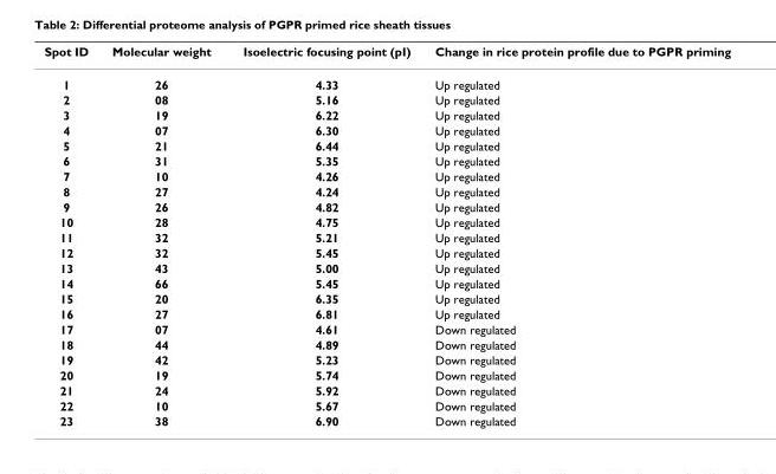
<table><thead><tr><td>Spot ID</td><td>Molecular weight</td><td>Isoelectric focusing point (pI)</td><td>Change in rice protein profile due to PGPR priming</td></tr></thead><tbody><tr><td>1</td><td>26</td><td>4.33</td><td>Up regulated</td></tr><tr><td>2</td><td>08</td><td>5.16</td><td>Up regulated</td></tr><tr><td>3</td><td>19</td><td>6.22</td><td>Up regulated</td></tr><tr><td>4</td><td>07</td><td>6.30</td><td>Up regulated</td></tr><tr><td>5</td><td>21</td><td>6.44</td><td>Up regulated</td></tr><tr><td>6</td><td>31</td><td>5.35</td><td>Up regulated</td></tr><tr><td>7</td><td>10</td><td>4.26</td><td>Up regulated</td></tr><tr><td>8</td><td>27</td><td>4.24</td><td>Up regulated</td></tr><tr><td>9</td><td>26</td><td>4.82</td><td>Up regulated</td></tr><tr><td>10</td><td>28</td><td>4.75</td><td>Up regulated</td></tr><tr><td>11</td><td>32</td><td>5.21</td><td>Up regulated</td></tr><tr><td>12</td><td>32</td><td>5.45</td><td>Up regulated</td></tr><tr><td>13</td><td>43</td><td>5.00</td><td>Up regulated</td></tr><tr><td>14</td><td>66</td><td>5.45</td><td>Up regulated</td></tr><tr><td>15</td><td>20</td><td>6.35</td><td>Up regulated</td></tr><tr><td>16</td><td>27</td><td>6.81</td><td>Up regulated</td></tr><tr><td>17</td><td>07</td><td>4.61</td><td>Down regulated</td></tr><tr><td>18</td><td>44</td><td>4.89</td><td>Down regulated</td></tr><tr><td>19</td><td>42</td><td>5.23</td><td>Down regulated</td></tr><tr><td>20</td><td>19</td><td>5.74</td><td>Down regulated</td></tr><tr><td>21</td><td>24</td><td>5.92</td><td>Down regulated</td></tr><tr><td>22</td><td>10</td><td>5.67</td><td>Down regulated</td></tr><tr><td>23</td><td>38</td><td>6.90</td><td>Down regulated</td></tr></tbody></table>